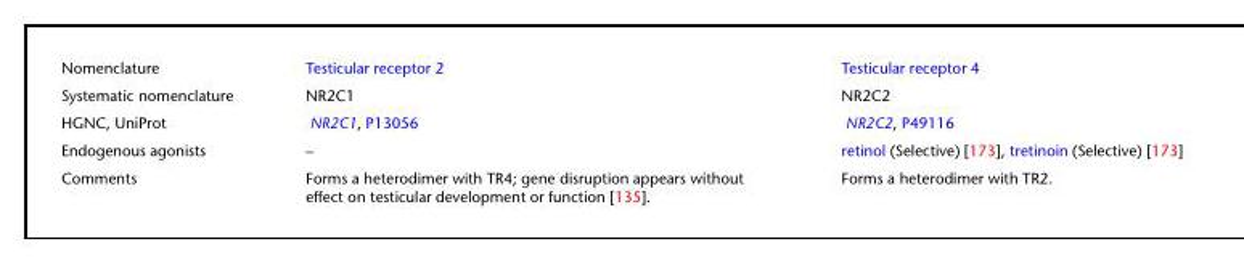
<table><tbody><tr><td>Nomenclature</td><td>Testicular receptor 2</td><td>Testicular receptor 4</td></tr><tr><td>Systematic nomenclature</td><td>NR2C1</td><td>NR2C2</td></tr><tr><td>HGNC, UniProt</td><td>NR2C1, P13056</td><td>NR2C2, P49116</td></tr><tr><td>Endogenous agonists</td><td>–</td><td>retinol (Selective) [173], tretinoin (Selective) [173]</td></tr><tr><td>Comments</td><td>Forms a heterodimer with TR4; gene disruption appears without effect on testicular development or function [135].</td><td>Forms a heterodimer with TR2.</td></tr></tbody></table>